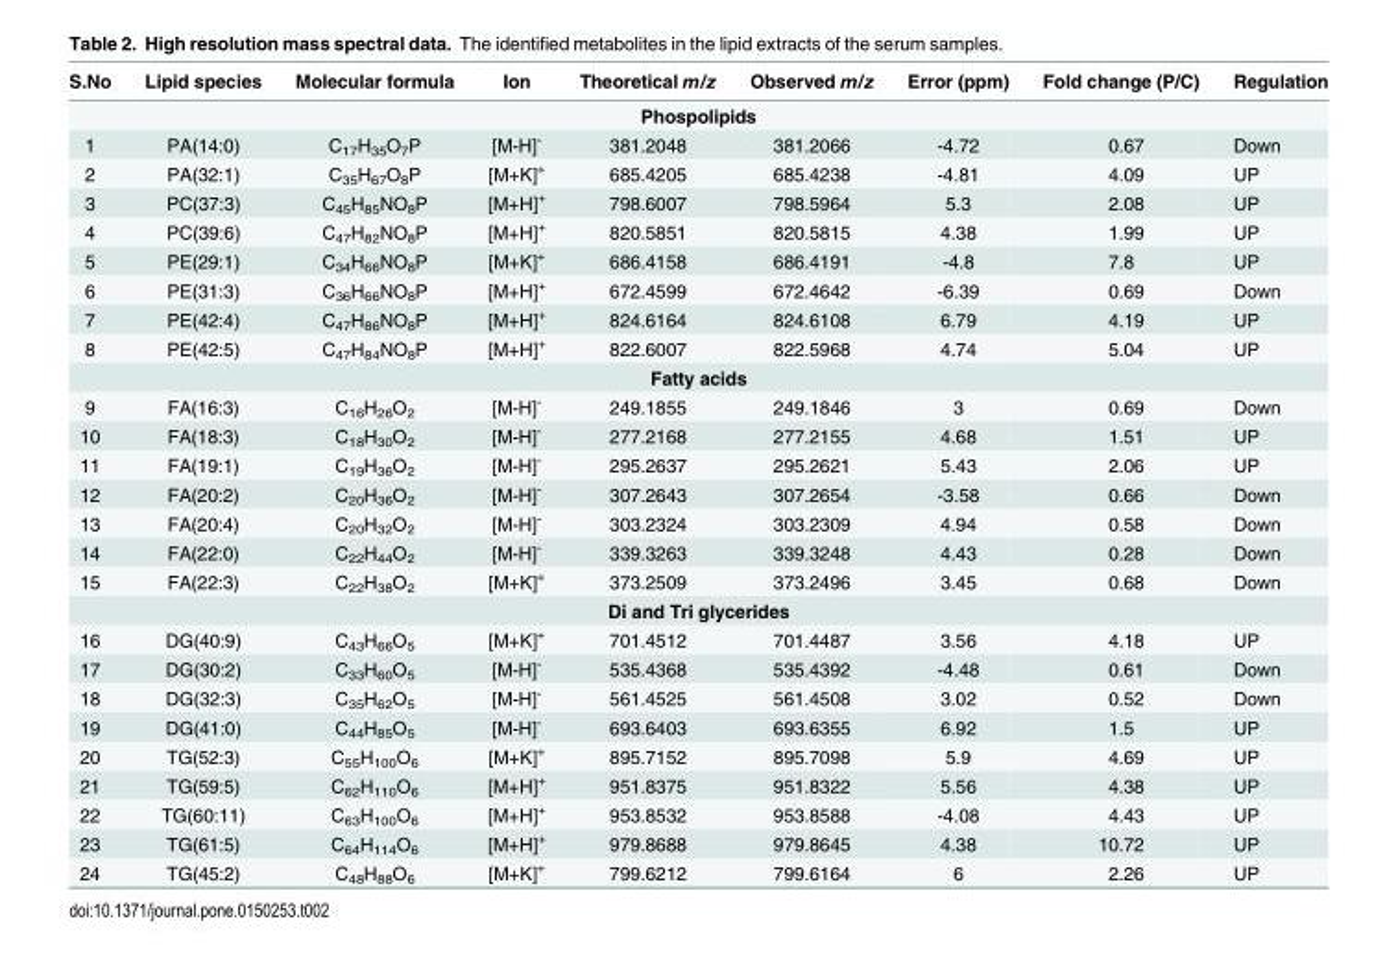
<table><thead><tr><td>S.No</td><td>Lipid species</td><td>Molecular formula</td><td>Ion</td><td>Theoretical m/z</td><td>Observed m/z</td><td>Error (ppm)</td><td>Fold change (P/C)</td><td>Regulation</td></tr></thead><tbody><tr><td colspan="9">Phospolipids</td></tr><tr><td>1</td><td>PA(14:0)</td><td>C<sub>17</sub>H<sub>35</sub>O<sub>7</sub>P</td><td>[M-H]<sup>-</sup></td><td>381.2048</td><td>381.2066</td><td>-4.72</td><td>0.67</td><td>Down</td></tr><tr><td>2</td><td>PA(32:1)</td><td>C<sub>35</sub>H<sub>67</sub>O<sub>8</sub>P</td><td>[M+K]<sup>+</sup></td><td>685.4205</td><td>685.4238</td><td>-4.81</td><td>4.09</td><td>UP</td></tr><tr><td>3</td><td>PC(37:3)</td><td>C<sub>45</sub>H<sub>85</sub>NO<sub>8</sub>P</td><td>[M+H]<sup>+</sup></td><td>798.6007</td><td>798.5964</td><td>5.3</td><td>2.08</td><td>UP</td></tr><tr><td>4</td><td>PC(39:6)</td><td>C<sub>47</sub>H<sub>82</sub>NO<sub>8</sub>P</td><td>[M+H]<sup>+</sup></td><td>820.5851</td><td>820.5815</td><td>4.38</td><td>1.99</td><td>UP</td></tr><tr><td>5</td><td>PE(29:1)</td><td>C<sub>34</sub>H<sub>66</sub>NO<sub>8</sub>P</td><td>[M+K]<sup>+</sup></td><td>686.4158</td><td>686.4191</td><td>-4.8</td><td>7.8</td><td>UP</td></tr><tr><td>6</td><td>PE(31:3)</td><td>C<sub>36</sub>H<sub>66</sub>NO<sub>8</sub>P</td><td>[M+H]<sup>+</sup></td><td>672.4599</td><td>672.4642</td><td>-6.39</td><td>0.69</td><td>Down</td></tr><tr><td>7</td><td>PE(42:4)</td><td>C<sub>47</sub>H<sub>86</sub>NO<sub>8</sub>P</td><td>[M+H]<sup>+</sup></td><td>824.6164</td><td>824.6108</td><td>6.79</td><td>4.19</td><td>UP</td></tr><tr><td>8</td><td>PE(42:5)</td><td>C<sub>47</sub>H<sub>84</sub>NO<sub>8</sub>P</td><td>[M+H]<sup>+</sup></td><td>822.6007</td><td>822.5968</td><td>4.74</td><td>5.04</td><td>UP</td></tr><tr><td colspan="9">Fatty acids</td></tr><tr><td>9</td><td>FA(16:3)</td><td>C<sub>16</sub>H<sub>26</sub>O<sub>2</sub></td><td>[M-H]<sup>-</sup></td><td>249.1855</td><td>249.1846</td><td>3</td><td>0.69</td><td>Down</td></tr><tr><td>10</td><td>FA(18:3)</td><td>C<sub>18</sub>H<sub>30</sub>O<sub>2</sub></td><td>[M-H]<sup>-</sup></td><td>277.2168</td><td>277.2155</td><td>4.68</td><td>1.51</td><td>UP</td></tr><tr><td>11</td><td>FA(19:1)</td><td>C<sub>19</sub>H<sub>36</sub>O<sub>2</sub></td><td>[M-H]<sup>-</sup></td><td>295.2637</td><td>295.2621</td><td>5.43</td><td>2.06</td><td>UP</td></tr><tr><td>12</td><td>FA(20:2)</td><td>C<sub>20</sub>H<sub>36</sub>O<sub>2</sub></td><td>[M-H]<sup>-</sup></td><td>307.2643</td><td>307.2654</td><td>-3.58</td><td>0.66</td><td>Down</td></tr><tr><td>13</td><td>FA(20:4)</td><td>C<sub>20</sub>H<sub>32</sub>O<sub>2</sub></td><td>[M-H]<sup>-</sup></td><td>303.2324</td><td>303.2309</td><td>4.94</td><td>0.58</td><td>Down</td></tr><tr><td>14</td><td>FA(22:0)</td><td>C<sub>22</sub>H<sub>44</sub>O<sub>2</sub></td><td>[M-H]<sup>-</sup></td><td>339.3263</td><td>339.3248</td><td>4.43</td><td>0.28</td><td>Down</td></tr><tr><td>15</td><td>FA(22:3)</td><td>C<sub>22</sub>H<sub>38</sub>O<sub>2</sub></td><td>[M+K]<sup>+</sup></td><td>373.2509</td><td>373.2496</td><td>3.45</td><td>0.68</td><td>Down</td></tr><tr><td colspan="9">Di and Tri glycerides</td></tr><tr><td>16</td><td>DG(40:9)</td><td>C<sub>43</sub>H<sub>66</sub>O<sub>5</sub></td><td>[M+K]<sup>+</sup></td><td>701.4512</td><td>701.4487</td><td>3.56</td><td>4.18</td><td>UP</td></tr><tr><td>17</td><td>DG(30:2)</td><td>C<sub>33</sub>H<sub>60</sub>O<sub>5</sub></td><td>[M-H]<sup>-</sup></td><td>535.4368</td><td>535.4392</td><td>-4.48</td><td>0.61</td><td>Down</td></tr><tr><td>18</td><td>DG(32:3)</td><td>C<sub>35</sub>H<sub>62</sub>O<sub>5</sub></td><td>[M-H]<sup>-</sup></td><td>561.4525</td><td>561.4508</td><td>3.02</td><td>0.52</td><td>Down</td></tr><tr><td>19</td><td>DG(41:0)</td><td>C<sub>44</sub>H<sub>85</sub>O<sub>5</sub></td><td>[M-H]<sup>-</sup></td><td>693.6403</td><td>693.6355</td><td>6.92</td><td>1.5</td><td>UP</td></tr><tr><td>20</td><td>TG(52:3)</td><td>C<sub>55</sub>H<sub>100</sub>O<sub>6</sub></td><td>[M+K]<sup>+</sup></td><td>895.7152</td><td>895.7098</td><td>5.9</td><td>4.69</td><td>UP</td></tr><tr><td>21</td><td>TG(59:5)</td><td>C<sub>62</sub>H<sub>110</sub>O<sub>6</sub></td><td>[M+H]<sup>+</sup></td><td>951.8375</td><td>951.8322</td><td>5.56</td><td>4.38</td><td>UP</td></tr><tr><td>22</td><td>TG(60:11)</td><td>C<sub>63</sub>H<sub>100</sub>O<sub>6</sub></td><td>[M+H]<sup>+</sup></td><td>953.8532</td><td>953.8588</td><td>-4.08</td><td>4.43</td><td>UP</td></tr><tr><td>23</td><td>TG(61:5)</td><td>C<sub>64</sub>H<sub>114</sub>O<sub>6</sub></td><td>[M+H]<sup>+</sup></td><td>979.8688</td><td>979.8645</td><td>4.38</td><td>10.72</td><td>UP</td></tr><tr><td>24</td><td>TG(45:2)</td><td>C<sub>48</sub>H<sub>88</sub>O<sub>6</sub></td><td>[M+K]<sup>+</sup></td><td>799.6212</td><td>799.6164</td><td>6</td><td>2.26</td><td>UP</td></tr></tbody></table>